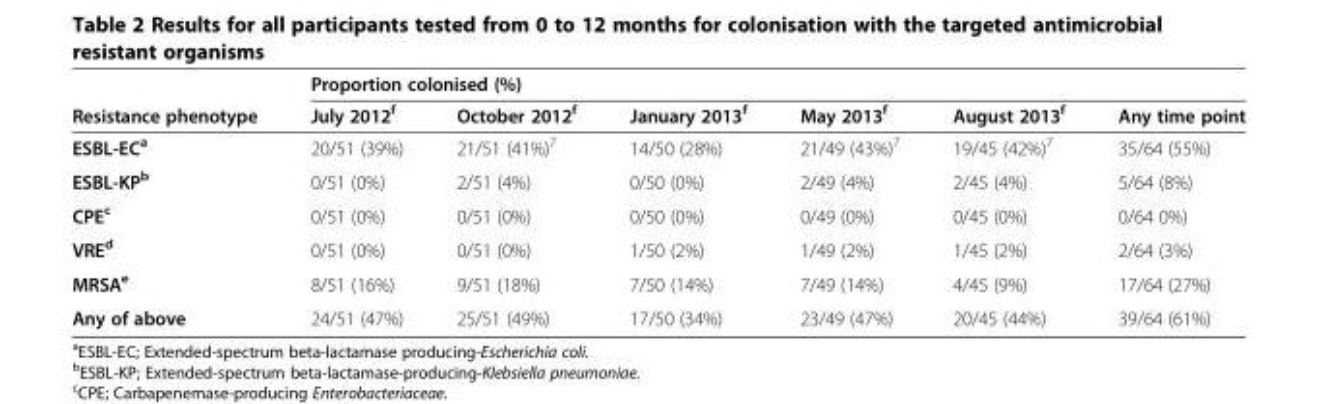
<table><thead><tr><td rowspan="2">Resistance phenotype</td><td colspan="6">Proportion colonised (%)</td></tr><tr><td>July 2012<sup>f</sup></td><td>October 2012<sup>f</sup></td><td>January 2013<sup>f</sup></td><td>May 2013<sup>f</sup></td><td>August 2013<sup>f</sup></td><td>Any time point</td></tr></thead><tbody><tr><td>ESBL-EC<sup>a</sup></td><td>20/51 (39%)</td><td>21/51 (41%)<sup>7</sup></td><td>14/50 (28%)</td><td>21/49 (43%)<sup>7</sup></td><td>19/45 (42%)<sup>7</sup></td><td>35/64 (55%)</td></tr><tr><td>ESBL-KP<sup>b</sup></td><td>0/51 (0%)</td><td>2/51 (4%)</td><td>0/50 (0%)</td><td>2/49 (4%)</td><td>2/45 (4%)</td><td>5/64 (8%)</td></tr><tr><td>CPE<sup>c</sup></td><td>0/51 (0%)</td><td>0/51 (0%)</td><td>0/50 (0%)</td><td>0/49 (0%)</td><td>0/45 (0%)</td><td>0/64 0%)</td></tr><tr><td>VRE<sup>d</sup></td><td>0/51 (0%)</td><td>0/51 (0%)</td><td>1/50 (2%)</td><td>1/49 (2%)</td><td>1/45 (2%)</td><td>2/64 (3%)</td></tr><tr><td>MRSA<sup>e</sup></td><td>8/51 (16%)</td><td>9/51 (18%)</td><td>7/50 (14%)</td><td>7/49 (14%)</td><td>4/45 (9%)</td><td>17/64 (27%)</td></tr><tr><td>Any of above</td><td>24/51 (47%)</td><td>25/51 (49%)</td><td>17/50 (34%)</td><td>23/49 (47%)</td><td>20/45 (44%)</td><td>39/64 (61%)</td></tr></tbody></table>